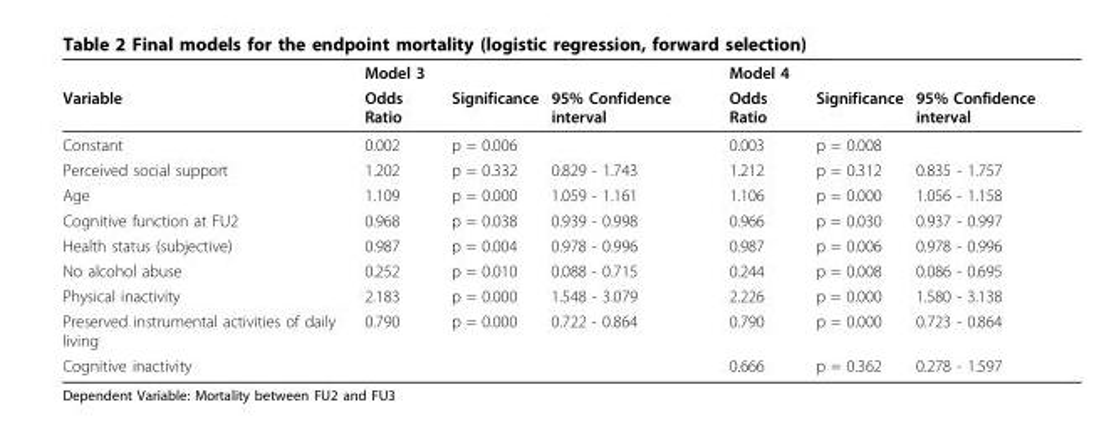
<table><thead><tr><td rowspan="2">Variable</td><td colspan="3">Model 3</td><td colspan="3">Model 4</td></tr><tr><td>Odds Ratio</td><td>Significance</td><td>95% Confidence interval</td><td>Odds Ratio</td><td>Significance</td><td>95% Confidence interval</td></tr></thead><tbody><tr><td>Constant</td><td>0.002</td><td>p = 0.006</td><td></td><td>0.003</td><td>p = 0.008</td><td></td></tr><tr><td>Perceived social support</td><td>1.202</td><td>p = 0.332</td><td>0.829 - 1.743</td><td>1.212</td><td>p = 0.312</td><td>0.835 - 1.757</td></tr><tr><td>Age</td><td>1.109</td><td>p = 0.000</td><td>1.059 - 1.161</td><td>1.106</td><td>p = 0.000</td><td>1.056 - 1.158</td></tr><tr><td>Cognitive function at FU2</td><td>0.968</td><td>p = 0.038</td><td>0.939 - 0.998</td><td>0.966</td><td>p = 0.030</td><td>0.937 - 0.997</td></tr><tr><td>Health status (subjective)</td><td>0.987</td><td>p = 0.004</td><td>0.978 - 0.996</td><td>0.987</td><td>p = 0.006</td><td>0.978 - 0.996</td></tr><tr><td>No alcohol abuse</td><td>0.252</td><td>p = 0.010</td><td>0.088 - 0.715</td><td>0.244</td><td>p = 0.008</td><td>0.086 - 0.695</td></tr><tr><td>Physical inactivity</td><td>2.183</td><td>p = 0.000</td><td>1.548 - 3.079</td><td>2.226</td><td>p = 0.000</td><td>1.580 - 3.138</td></tr><tr><td>Preserved instrumental activities of daily living</td><td>0.790</td><td>p = 0.000</td><td>0.722 - 0.864</td><td>0.790</td><td>p = 0.000</td><td>0.723 - 0.864</td></tr><tr><td>Cognitive inactivity</td><td></td><td></td><td></td><td>0.666</td><td>p = 0.362</td><td>0.278 - 1.597</td></tr></tbody></table>